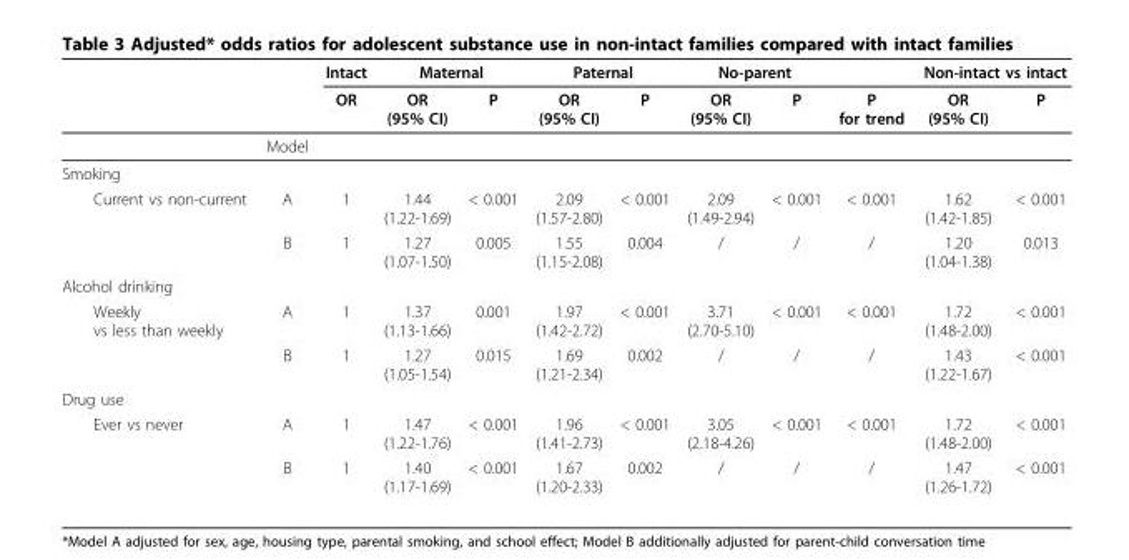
<table><thead><tr><td rowspan="2"></td><td rowspan="2"></td><td rowspan="2">Intact OR</td><td colspan="2">Maternal</td><td colspan="2">Paternal</td><td colspan="2">No-parent</td><td rowspan="2">P for trend</td><td colspan="2">Non-intact vs intact</td></tr><tr><td>OR (95% CI)</td><td>P</td><td>OR (95% CI)</td><td>P</td><td>OR (95% CI)</td><td>P</td><td>OR (95% CI)</td><td>P</td></tr></thead><tbody><tr><td></td><td>Model</td><td></td><td></td><td></td><td></td><td></td><td></td><td></td><td></td><td></td><td></td></tr><tr><td colspan="12">Smoking</td></tr><tr><td rowspan="2">Current vs non-current</td><td>A</td><td>1</td><td>1.44 (1.22-1.69)</td><td>&lt; 0.001</td><td>2.09 (1.57-2.80)</td><td>&lt; 0.001</td><td>2.09 (1.49-2.94)</td><td>&lt; 0.001</td><td>&lt; 0.001</td><td>1.62 (1.42-1.85)</td><td>&lt; 0.001</td></tr><tr><td>B</td><td>1</td><td>1.27 (1.07-1.50)</td><td>0.005</td><td>1.55 (1.15-2.08)</td><td>0.004</td><td>/</td><td>/</td><td>/</td><td>1.20 (1.04-1.38)</td><td>0.013</td></tr><tr><td colspan="12">Alcohol drinking</td></tr><tr><td rowspan="2">Weekly vs less than weekly</td><td>A</td><td>1</td><td>1.37 (1.13-1.66)</td><td>0.001</td><td>1.97 (1.42-2.72)</td><td>&lt; 0.001</td><td>3.71 (2.70-5.10)</td><td>&lt; 0.001</td><td>&lt; 0.001</td><td>1.72 (1.48-2.00)</td><td>&lt; 0.001</td></tr><tr><td>B</td><td>1</td><td>1.27 (1.05-1.54)</td><td>0.015</td><td>1.69 (1.21-2.34)</td><td>0.002</td><td>/</td><td>/</td><td>/</td><td>1.43 (1.22-1.67)</td><td>&lt; 0.001</td></tr><tr><td colspan="12">Drug use</td></tr><tr><td rowspan="2">Ever vs never</td><td>A</td><td>1</td><td>1.47 (1.22-1.76)</td><td>&lt; 0.001</td><td>1.96 (1.41-2.73)</td><td>&lt; 0.001</td><td>3.05 (2.18-4.26)</td><td>&lt; 0.001</td><td>&lt; 0.001</td><td>1.72 (1.48-2.00)</td><td>&lt; 0.001</td></tr><tr><td>B</td><td>1</td><td>1.40 (1.17-1.69)</td><td>&lt; 0.001</td><td>1.67 (1.20-2.33)</td><td>0.002</td><td>/</td><td>/</td><td>/</td><td>1.47 (1.26-1.72)</td><td>&lt; 0.001</td></tr></tbody></table>